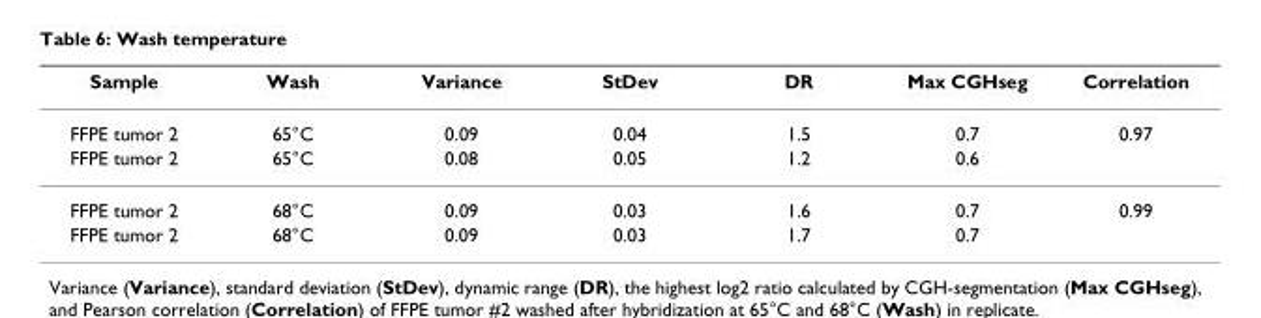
<table><thead><tr><td>Sample</td><td>Wash</td><td>Variance</td><td>StDev</td><td>DR</td><td>Max CGHseg</td><td>Correlation</td></tr></thead><tbody><tr><td>FFPE tumor 2</td><td>65°C</td><td>0.09</td><td>0.04</td><td>1.5</td><td>0.7</td><td>0.97</td></tr><tr><td>FFPE tumor 2</td><td>65°C</td><td>0.08</td><td>0.05</td><td>1.2</td><td>0.6</td><td></td></tr><tr><td>FFPE tumor 2</td><td>68°C</td><td>0.09</td><td>0.03</td><td>1.6</td><td>0.7</td><td>0.99</td></tr><tr><td>FFPE tumor 2</td><td>68°C</td><td>0.09</td><td>0.03</td><td>1.7</td><td>0.7</td><td></td></tr></tbody></table>